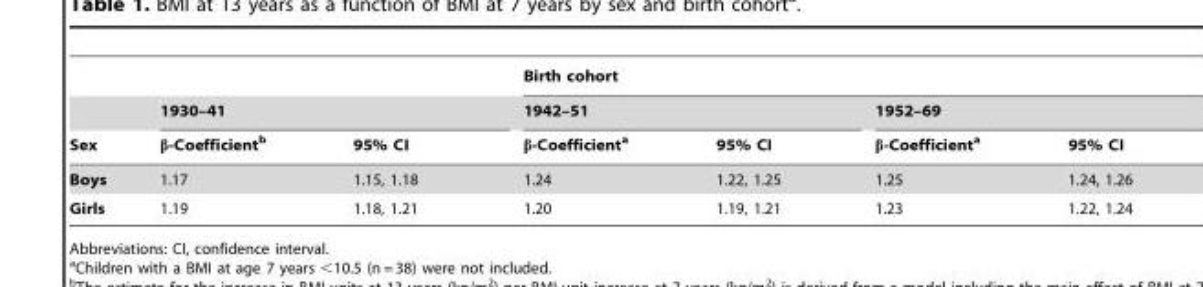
<table><thead><tr><td rowspan="3">Sex</td><td></td><td></td><td colspan="4">Birth cohort</td></tr><tr><td colspan="2">1930–41</td><td colspan="2">1942–51</td><td colspan="2">1952–69</td></tr><tr><td>β-Coefficient<sup>b</sup></td><td>95% CI</td><td>β-Coefficient<sup>a</sup></td><td>95% CI</td><td>β-Coefficient<sup>a</sup></td><td>95% CI</td></tr></thead><tbody><tr><td>Boys</td><td>1.17</td><td>1.15, 1.18</td><td>1.24</td><td>1.22, 1.25</td><td>1.25</td><td>1.24, 1.26</td></tr><tr><td>Girls</td><td>1.19</td><td>1.18, 1.21</td><td>1.20</td><td>1.19, 1.21</td><td>1.23</td><td>1.22, 1.24</td></tr></tbody></table>